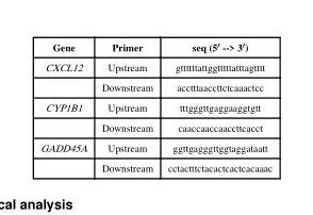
<table><thead><tr><td>Gene</td><td>Primer</td><td>seq (5′ --&gt; 3′)</td></tr></thead><tbody><tr><td rowspan="2">CXCL12</td><td>Upstream</td><td>gttttttattggtttttatttagtttt</td></tr><tr><td>Downstream</td><td>acctttaaccttctcaaactcc</td></tr><tr><td rowspan="2">CYP1B1</td><td>Upstream</td><td>tttgggttgaggaaggtgtt</td></tr><tr><td>Downstream</td><td>caaccaaccaaccttcacct</td></tr><tr><td rowspan="2">GADD45A</td><td>Upstream</td><td>ggttgagggttggtaggataatt</td></tr><tr><td>Downstream</td><td>cctactttctacactcactcacaaac</td></tr></tbody></table>